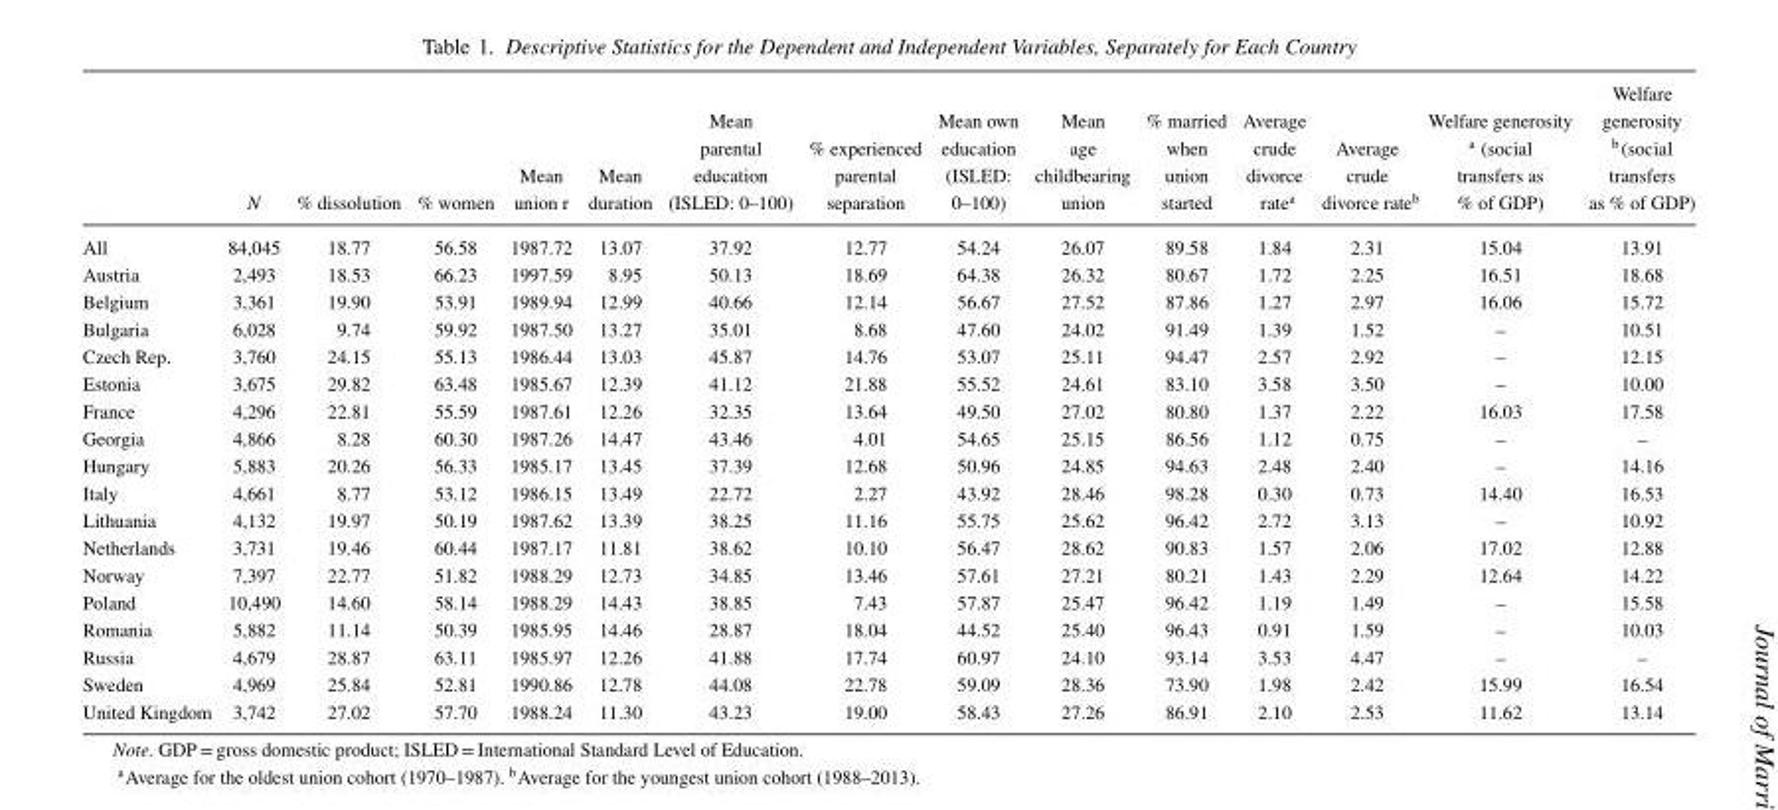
<table><thead><tr><td></td><td>N</td><td>% dissolution</td><td>% women</td><td>Mean union r</td><td>Mean duration</td><td>Mean parental education (ISLED: 0–100)</td><td>% experienced parental separation</td><td>Mean own education (ISLED: 0–100)</td><td>Mean age childbearing union</td><td>% married when union started</td><td>Average crude divorce rate<sup>a</sup></td><td>Average crude divorce rate<sup>b</sup></td><td>Welfare generosity <sup>a</sup> (social transfers as % of GDP)</td><td>Welfare generosity b(social transfers as % of GDP)</td></tr></thead><tbody><tr><td>All</td><td>84,045</td><td>18.77</td><td>56.58</td><td>1987.72</td><td>13.07</td><td>37.92</td><td>12.77</td><td>54.24</td><td>26.07</td><td>89.58</td><td>1.84</td><td>2.31</td><td>15.04</td><td>13.91</td></tr><tr><td>Austria</td><td>2,493</td><td>18.53</td><td>66.23</td><td>1997.59</td><td>8.95</td><td>50.13</td><td>18.69</td><td>64.38</td><td>26.32</td><td>80.67</td><td>1.72</td><td>2.25</td><td>16.51</td><td>18.68</td></tr><tr><td>Belgium</td><td>3,361</td><td>19.90</td><td>53.91</td><td>1989.94</td><td>12.99</td><td>40.66</td><td>12.14</td><td>56.67</td><td>27.52</td><td>87.86</td><td>1.27</td><td>2.97</td><td>16.06</td><td>15.72</td></tr><tr><td>Bulgaria</td><td>6,028</td><td>9.74</td><td>59.92</td><td>1987.50</td><td>13.27</td><td>35.01</td><td>8.68</td><td>47.60</td><td>24.02</td><td>91.49</td><td>1.39</td><td>1.52</td><td>–</td><td>10.51</td></tr><tr><td>Czech Rep.</td><td>3,760</td><td>24.15</td><td>55.13</td><td>1986.44</td><td>13.03</td><td>45.87</td><td>14.76</td><td>53.07</td><td>25.11</td><td>94.47</td><td>2.57</td><td>2.92</td><td>–</td><td>12.15</td></tr><tr><td>Estonia</td><td>3,675</td><td>29.82</td><td>63.48</td><td>1985.67</td><td>12.39</td><td>41.12</td><td>21.88</td><td>55.52</td><td>24.61</td><td>83.10</td><td>3.58</td><td>3.50</td><td>–</td><td>10.00</td></tr><tr><td>France</td><td>4,296</td><td>22.81</td><td>55.59</td><td>1987.61</td><td>12.26</td><td>32.35</td><td>13.64</td><td>49.50</td><td>27.02</td><td>80.80</td><td>1.37</td><td>2.22</td><td>16.03</td><td>17.58</td></tr><tr><td>Georgia</td><td>4,866</td><td>8.28</td><td>60.30</td><td>1987.26</td><td>14.47</td><td>43.46</td><td>4.01</td><td>54.65</td><td>25.15</td><td>86.56</td><td>1.12</td><td>0.75</td><td>–</td><td>–</td></tr><tr><td>Hungary</td><td>5,883</td><td>20.26</td><td>56.33</td><td>1985.17</td><td>13.45</td><td>37.39</td><td>12.68</td><td>50.96</td><td>24.85</td><td>94.63</td><td>2.48</td><td>2.40</td><td>–</td><td>14.16</td></tr><tr><td>Italy</td><td>4,661</td><td>8.77</td><td>53.12</td><td>1986.15</td><td>13.49</td><td>22.72</td><td>2.27</td><td>43.92</td><td>28.46</td><td>98.28</td><td>0.30</td><td>0.73</td><td>14.40</td><td>16.53</td></tr><tr><td>Lithuania</td><td>4,132</td><td>19.97</td><td>50.19</td><td>1987.62</td><td>13.39</td><td>38.25</td><td>11.16</td><td>55.75</td><td>25.62</td><td>96.42</td><td>2.72</td><td>3.13</td><td>–</td><td>10.92</td></tr><tr><td>Netherlands</td><td>3,731</td><td>19.46</td><td>60.44</td><td>1987.17</td><td>11.81</td><td>38.62</td><td>10.10</td><td>56.47</td><td>28.62</td><td>90.83</td><td>1.57</td><td>2.06</td><td>17.02</td><td>12.88</td></tr><tr><td>Norway</td><td>7,397</td><td>22.77</td><td>51.82</td><td>1988.29</td><td>12.73</td><td>34.85</td><td>13.46</td><td>57.61</td><td>27.21</td><td>80.21</td><td>1.43</td><td>2.29</td><td>12.64</td><td>14.22</td></tr><tr><td>Poland</td><td>10,490</td><td>14.60</td><td>58.14</td><td>1988.29</td><td>14.43</td><td>38.85</td><td>7.43</td><td>57.87</td><td>25.47</td><td>96.42</td><td>1.19</td><td>1.49</td><td>–</td><td>15.58</td></tr><tr><td>Romania</td><td>5,882</td><td>11.14</td><td>50.39</td><td>1985.95</td><td>14.46</td><td>28.87</td><td>18.04</td><td>44.52</td><td>25.40</td><td>96.43</td><td>0.91</td><td>1.59</td><td>–</td><td>10.03</td></tr><tr><td>Russia</td><td>4,679</td><td>28.87</td><td>63.11</td><td>1985.97</td><td>12.26</td><td>41.88</td><td>17.74</td><td>60.97</td><td>24.10</td><td>93.14</td><td>3.53</td><td>4.47</td><td>–</td><td>–</td></tr><tr><td>Sweden</td><td>4,969</td><td>25.84</td><td>52.81</td><td>1990.86</td><td>12.78</td><td>44.08</td><td>22.78</td><td>59.09</td><td>28.36</td><td>73.90</td><td>1.98</td><td>2.42</td><td>15.99</td><td>16.54</td></tr><tr><td>United Kingdom</td><td>3,742</td><td>27.02</td><td>57.70</td><td>1988.24</td><td>11.30</td><td>43.23</td><td>19.00</td><td>58.43</td><td>27.26</td><td>86.91</td><td>2.10</td><td>2.53</td><td>11.62</td><td>13.14</td></tr></tbody></table>